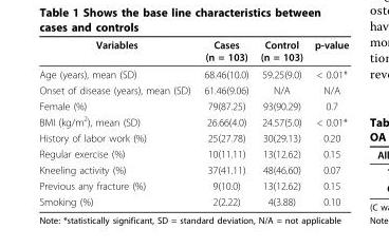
<table><thead><tr><td>Variables</td><td>Cases (n = 103)</td><td>Control (n = 103)</td><td>p-value</td></tr></thead><tbody><tr><td>Age (years), mean (SD)</td><td>68.46(10.0)</td><td>59.25(9.0)</td><td>&lt; 0.01*</td></tr><tr><td>Onset of disease (years), mean (SD)</td><td>61.46(9.06)</td><td>N/A</td><td>N/A</td></tr><tr><td>Female (%)</td><td>79(87.25)</td><td>93(90.29)</td><td>0.7</td></tr><tr><td>BMI (kg/m<sup>2</sup>), mean (SD)</td><td>26.66(4.0)</td><td>24.57(5.0)</td><td>&lt; 0.01*</td></tr><tr><td>History of labor work (%)</td><td>25(27.78)</td><td>30(29.13)</td><td>0.20</td></tr><tr><td>Regular exercise (%)</td><td>10(11.11)</td><td>13(12.62)</td><td>0.15</td></tr><tr><td>Kneeling activity (%)</td><td>37(41.11)</td><td>48(46.60)</td><td>0.07</td></tr><tr><td>Previous any fracture (%)</td><td>9(10.0)</td><td>13(12.62)</td><td>0.15</td></tr><tr><td>Smoking (%)</td><td>2(2.22)</td><td>4(3.88)</td><td>0.10</td></tr></tbody></table>